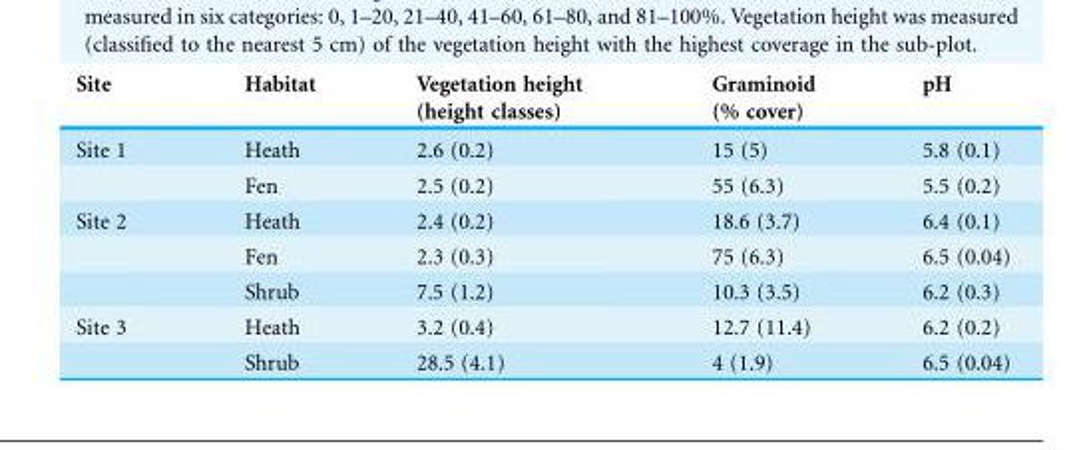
<table><thead><tr><td>Site</td><td>Habitat</td><td>Vegetation height (height classes)</td><td>Graminoid (% cover)</td><td>pH</td></tr></thead><tbody><tr><td rowspan="2">Site 1</td><td>Heath</td><td>2.6 (0.2)</td><td>15 (5)</td><td>5.8 (0.1)</td></tr><tr><td>Fen</td><td>2.5 (0.2)</td><td>55 (6.3)</td><td>5.5 (0.2)</td></tr><tr><td rowspan="3">Site 2</td><td>Heath</td><td>2.4 (0.2)</td><td>18.6 (3.7)</td><td>6.4 (0.1)</td></tr><tr><td>Fen</td><td>2.3 (0.3)</td><td>75 (6.3)</td><td>6.5 (0.04)</td></tr><tr><td>Shrub</td><td>7.5 (1.2)</td><td>10.3 (3.5)</td><td>6.2 (0.3)</td></tr><tr><td rowspan="2">Site 3</td><td>Heath</td><td>3.2 (0.4)</td><td>12.7 (11.4)</td><td>6.2 (0.2)</td></tr><tr><td>Shrub</td><td>28.5 (4.1)</td><td>4 (1.9)</td><td>6.5 (0.04)</td></tr></tbody></table>